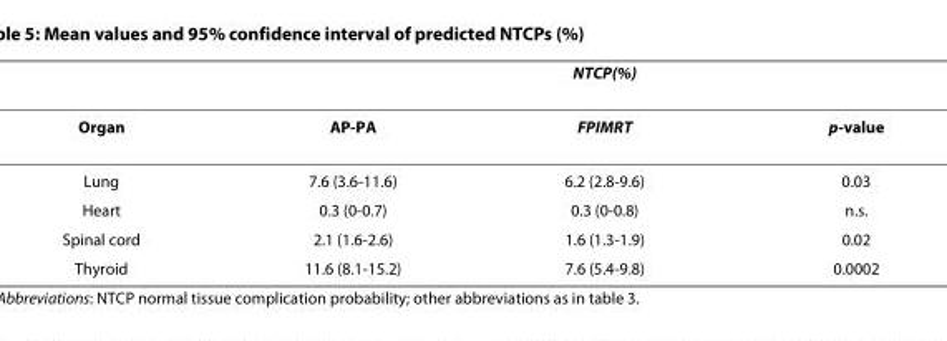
<table><thead><tr><td></td><td></td><td>NTCP(%)</td><td></td></tr></thead><tbody><tr><td>Organ</td><td>AP-PA</td><td>FPIMRT</td><td>p-value</td></tr><tr><td>Lung</td><td>7.6 (3.6-11.6)</td><td>6.2 (2.8-9.6)</td><td>0.03</td></tr><tr><td>Heart</td><td>0.3 (0-0.7)</td><td>0.3 (0-0.8)</td><td>n.s.</td></tr><tr><td>Spinal cord</td><td>2.1 (1.6-2.6)</td><td>1.6 (1.3-1.9)</td><td>0.02</td></tr><tr><td>Thyroid</td><td>11.6 (8.1-15.2)</td><td>7.6 (5.4-9.8)</td><td>0.0002</td></tr></tbody></table>